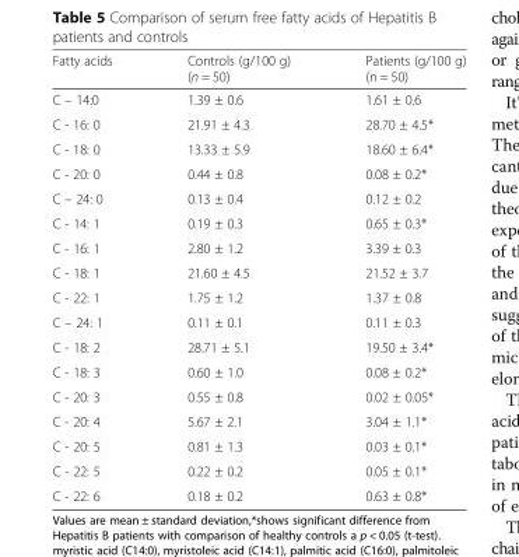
<table><thead><tr><td>Fatty acids</td><td>Controls (g/100 g) (n = 50)</td><td>Patients (g/100 g) (n = 50)</td></tr></thead><tbody><tr><td>C – 14:0</td><td>1.39 ± 0.6</td><td>1.61 ± 0.6</td></tr><tr><td>C - 16: 0</td><td>21.91 ± 4.3</td><td>28.70 ± 4.5*</td></tr><tr><td>C - 18: 0</td><td>13.33 ± 5.9</td><td>18.60 ± 6.4*</td></tr><tr><td>C - 20: 0</td><td>0.44 ± 0.8</td><td>0.08 ± 0.2*</td></tr><tr><td>C – 24: 0</td><td>0.13 ± 0.4</td><td>0.12 ± 0.2</td></tr><tr><td>C - 14: 1</td><td>0.19 ± 0.3</td><td>0.65 ± 0.3*</td></tr><tr><td>C - 16: 1</td><td>2.80 ± 1.2</td><td>3.39 ± 0.3</td></tr><tr><td>C - 18: 1</td><td>21.60 ± 4.5</td><td>21.52 ± 3.7</td></tr><tr><td>C - 22: 1</td><td>1.75 ± 1.2</td><td>1.37 ± 0.8</td></tr><tr><td>C – 24: 1</td><td>0.11 ± 0.1</td><td>0.11 ± 0.3</td></tr><tr><td>C - 18: 2</td><td>28.71 ± 5.1</td><td>19.50 ± 3.4*</td></tr><tr><td>C - 18: 3</td><td>0.60 ± 1.0</td><td>0.08 ± 0.2*</td></tr><tr><td>C - 20: 3</td><td>0.55 ± 0.8</td><td>0.02 ± 0.05*</td></tr><tr><td>C - 20: 4</td><td>5.67 ± 2.1</td><td>3.04 ± 1.1*</td></tr><tr><td>C - 20: 5</td><td>0.81 ± 1.3</td><td>0.03 ± 0.1*</td></tr><tr><td>C - 22: 5</td><td>0.22 ± 0.2</td><td>0.05 ± 0.1*</td></tr><tr><td>C - 22: 6</td><td>0.18 ± 0.2</td><td>0.63 ± 0.8*</td></tr></tbody></table>